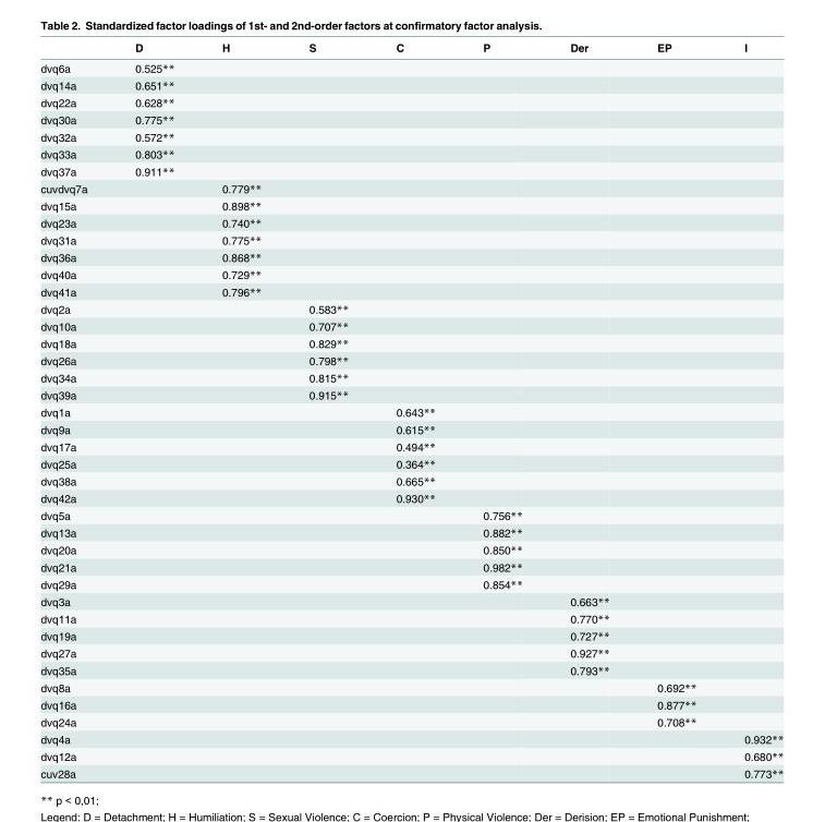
<table><thead><tr><td></td><td>D</td><td>H</td><td>S</td><td>C</td><td>P</td><td>Der</td><td>EP</td><td>I</td></tr></thead><tbody><tr><td>dvq6a</td><td>0.525**</td><td></td><td></td><td></td><td></td><td></td><td></td><td></td></tr><tr><td>dvq14a</td><td>0.651**</td><td></td><td></td><td></td><td></td><td></td><td></td><td></td></tr><tr><td>dvq22a</td><td>0.628**</td><td></td><td></td><td></td><td></td><td></td><td></td><td></td></tr><tr><td>dvq30a</td><td>0.775**</td><td></td><td></td><td></td><td></td><td></td><td></td><td></td></tr><tr><td>dvq32a</td><td>0.572**</td><td></td><td></td><td></td><td></td><td></td><td></td><td></td></tr><tr><td>dvq33a</td><td>0.803**</td><td></td><td></td><td></td><td></td><td></td><td></td><td></td></tr><tr><td>dvq37a</td><td>0.911**</td><td></td><td></td><td></td><td></td><td></td><td></td><td></td></tr><tr><td>cuvdvq7a</td><td></td><td>0.779**</td><td></td><td></td><td></td><td></td><td></td><td></td></tr><tr><td>dvq15a</td><td></td><td>0.898**</td><td></td><td></td><td></td><td></td><td></td><td></td></tr><tr><td>dvq23a</td><td></td><td>0.740**</td><td></td><td></td><td></td><td></td><td></td><td></td></tr><tr><td>dvq31a</td><td></td><td>0.775**</td><td></td><td></td><td></td><td></td><td></td><td></td></tr><tr><td>dvq36a</td><td></td><td>0.868**</td><td></td><td></td><td></td><td></td><td></td><td></td></tr><tr><td>dvq40a</td><td></td><td>0.729**</td><td></td><td></td><td></td><td></td><td></td><td></td></tr><tr><td>dvq41a</td><td></td><td>0.796**</td><td></td><td></td><td></td><td></td><td></td><td></td></tr><tr><td>dvq2a</td><td></td><td></td><td>0.583**</td><td></td><td></td><td></td><td></td><td></td></tr><tr><td>dvq10a</td><td></td><td></td><td>0.707**</td><td></td><td></td><td></td><td></td><td></td></tr><tr><td>dvq18a</td><td></td><td></td><td>0.829**</td><td></td><td></td><td></td><td></td><td></td></tr><tr><td>dvq26a</td><td></td><td></td><td>0.798**</td><td></td><td></td><td></td><td></td><td></td></tr><tr><td>dvq34a</td><td></td><td></td><td>0.815**</td><td></td><td></td><td></td><td></td><td></td></tr><tr><td>dvq39a</td><td></td><td></td><td>0.915**</td><td></td><td></td><td></td><td></td><td></td></tr><tr><td>dvq1a</td><td></td><td></td><td></td><td>0.643**</td><td></td><td></td><td></td><td></td></tr><tr><td>dvq9a</td><td></td><td></td><td></td><td>0.615**</td><td></td><td></td><td></td><td></td></tr><tr><td>dvq17a</td><td></td><td></td><td></td><td>0.494**</td><td></td><td></td><td></td><td></td></tr><tr><td>dvq25a</td><td></td><td></td><td></td><td>0.364**</td><td></td><td></td><td></td><td></td></tr><tr><td>dvq38a</td><td></td><td></td><td></td><td>0.665**</td><td></td><td></td><td></td><td></td></tr><tr><td>dvq42a</td><td></td><td></td><td></td><td>0.930**</td><td></td><td></td><td></td><td></td></tr><tr><td>dvq5a</td><td></td><td></td><td></td><td></td><td>0.756**</td><td></td><td></td><td></td></tr><tr><td>dvq13a</td><td></td><td></td><td></td><td></td><td>0.882**</td><td></td><td></td><td></td></tr><tr><td>dvq20a</td><td></td><td></td><td></td><td></td><td>0.850**</td><td></td><td></td><td></td></tr><tr><td>dvq21a</td><td></td><td></td><td></td><td></td><td>0.982**</td><td></td><td></td><td></td></tr><tr><td>dvq29a</td><td></td><td></td><td></td><td></td><td>0.854**</td><td></td><td></td><td></td></tr><tr><td>dvq3a</td><td></td><td></td><td></td><td></td><td></td><td>0.663**</td><td></td><td></td></tr><tr><td>dvq11a</td><td></td><td></td><td></td><td></td><td></td><td>0.770**</td><td></td><td></td></tr><tr><td>dvq19a</td><td></td><td></td><td></td><td></td><td></td><td>0.727**</td><td></td><td></td></tr><tr><td>dvq27a</td><td></td><td></td><td></td><td></td><td></td><td>0.927**</td><td></td><td></td></tr><tr><td>dvq35a</td><td></td><td></td><td></td><td></td><td></td><td>0.793**</td><td></td><td></td></tr><tr><td>dvq8a</td><td></td><td></td><td></td><td></td><td></td><td></td><td>0.692**</td><td></td></tr><tr><td>dvq16a</td><td></td><td></td><td></td><td></td><td></td><td></td><td>0.877**</td><td></td></tr><tr><td>dvq24a</td><td></td><td></td><td></td><td></td><td></td><td></td><td>0.708**</td><td></td></tr><tr><td>dvq4a</td><td></td><td></td><td></td><td></td><td></td><td></td><td></td><td>0.932**</td></tr><tr><td>dvq12a</td><td></td><td></td><td></td><td></td><td></td><td></td><td></td><td>0.680**</td></tr><tr><td>cuv28a</td><td></td><td></td><td></td><td></td><td></td><td></td><td></td><td>0.773**</td></tr></tbody></table>